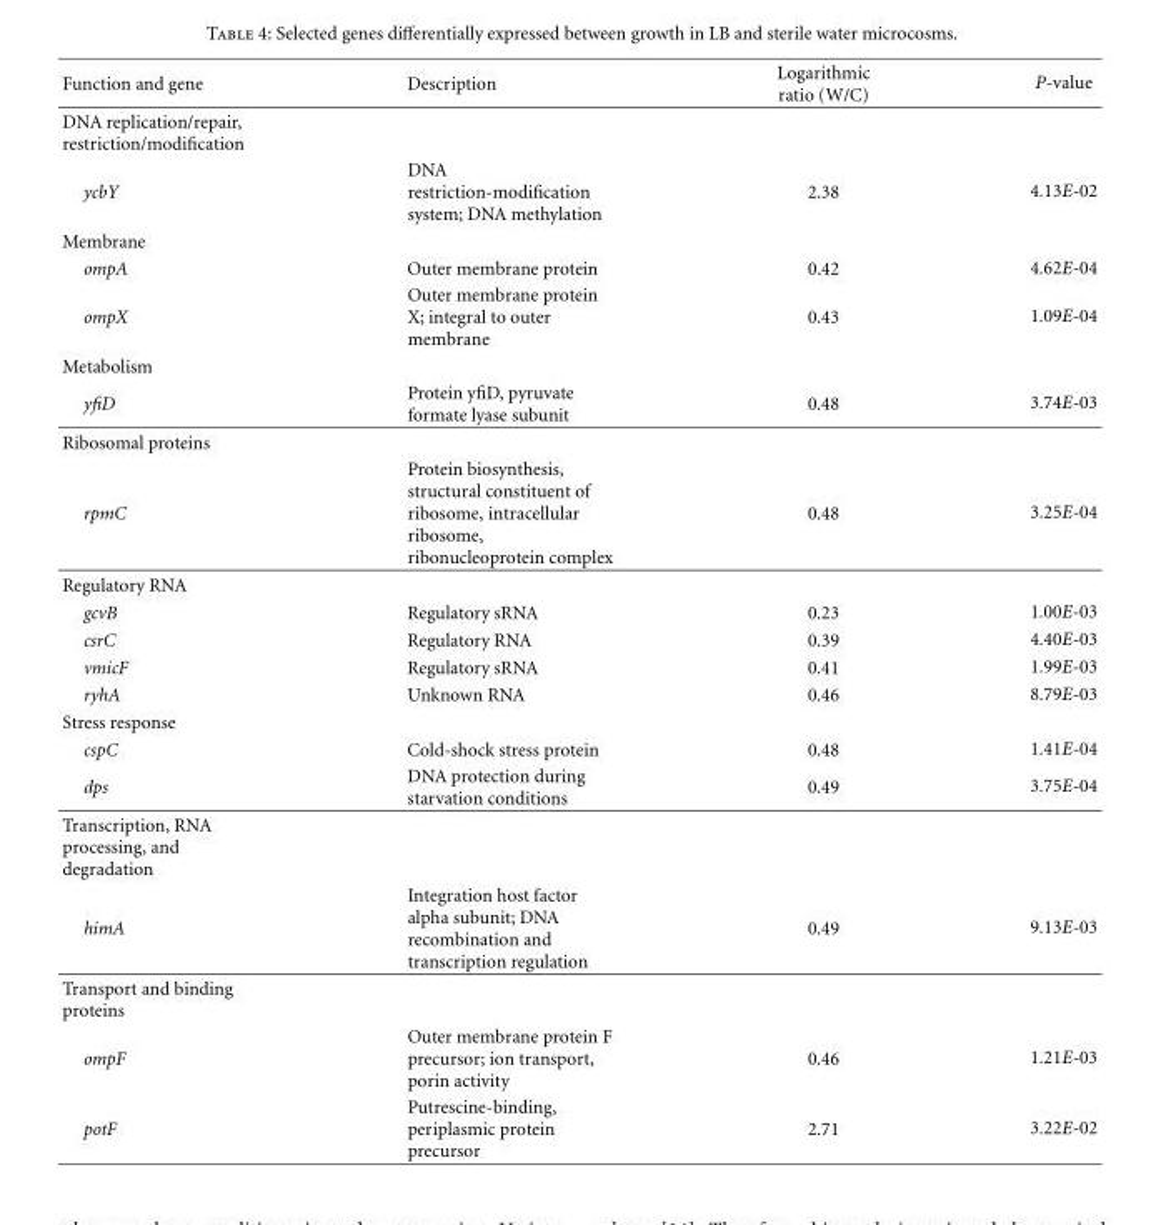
<table><thead><tr><td>Function and gene</td><td>Description</td><td>Logarithmic ratio (W/C)</td><td>P-value</td></tr></thead><tbody><tr><td colspan="4">DNA replication/repair, restriction/modification</td></tr><tr><td>ycbY</td><td>DNA restriction-modification system; DNA methylation</td><td>2.38</td><td>4.13E-02</td></tr><tr><td colspan="4">Membrane</td></tr><tr><td>ompA</td><td>Outer membrane protein</td><td>0.42</td><td>4.62E-04</td></tr><tr><td>ompX</td><td>Outer membrane protein X; integral to outer membrane</td><td>0.43</td><td>1.09E-04</td></tr><tr><td colspan="4">Metabolism</td></tr><tr><td>yfiD</td><td>Protein yfiD, pyruvate formate lyase subunit</td><td>0.48</td><td>3.74E-03</td></tr><tr><td colspan="4">Ribosomal proteins</td></tr><tr><td>rpmC</td><td>Protein biosynthesis, structural constituent of ribosome, intracellular ribosome, ribonucleoprotein complex</td><td>0.48</td><td>3.25E-04</td></tr><tr><td colspan="4">Regulatory RNA</td></tr><tr><td>gcvB</td><td>Regulatory sRNA</td><td>0.23</td><td>1.00E-03</td></tr><tr><td>csrC</td><td>Regulatory RNA</td><td>0.39</td><td>4.40E-03</td></tr><tr><td>vmicF</td><td>Regulatory sRNA</td><td>0.41</td><td>1.99E-03</td></tr><tr><td>ryhA</td><td>Unknown RNA</td><td>0.46</td><td>8.79E-03</td></tr><tr><td colspan="4">Stress response</td></tr><tr><td>cspC</td><td>Cold-shock stress protein</td><td>0.48</td><td>1.41E-04</td></tr><tr><td>dps</td><td>DNA protection during starvation conditions</td><td>0.49</td><td>3.75E-04</td></tr><tr><td colspan="4">Transcription, RNA processing, and degradation</td></tr><tr><td>himA</td><td>Integration host factor alpha subunit; DNA recombination and transcription regulation</td><td>0.49</td><td>9.13E-03</td></tr><tr><td colspan="4">Transport and binding proteins</td></tr><tr><td>ompF</td><td>Outer membrane protein F precursor; ion transport, porin activity</td><td>0.46</td><td>1.21E-03</td></tr><tr><td>potF</td><td>Putrescine-binding, periplasmic protein precursor</td><td>2.71</td><td>3.22E-02</td></tr></tbody></table>